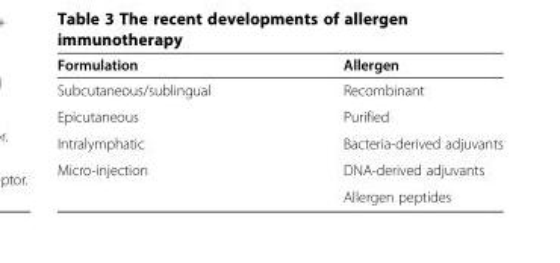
<table><thead><tr><td>Formulation</td><td>Allergen</td></tr></thead><tbody><tr><td>Subcutaneous/sublingual</td><td>Recombinant</td></tr><tr><td>Epicutaneous</td><td>Purified</td></tr><tr><td>Intralymphatic</td><td>Bacteria-derived adjuvants</td></tr><tr><td rowspan="2">Micro-injection</td><td>DNA-derived adjuvants</td></tr><tr><td>Allergen peptides</td></tr></tbody></table>